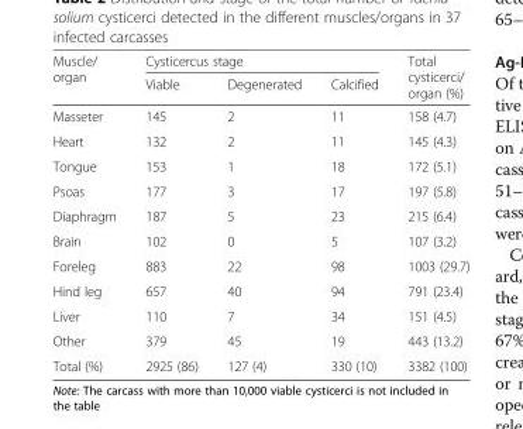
<table><thead><tr><td rowspan="2">Muscle/ organ</td><td colspan="3">Cysticercus stage</td><td rowspan="2">Total cysticerci/ organ (%)</td></tr><tr><td>Viable</td><td>Degenerated</td><td>Calcified</td></tr></thead><tbody><tr><td>Masseter</td><td>145</td><td>2</td><td>11</td><td>158 (4.7)</td></tr><tr><td>Heart</td><td>132</td><td>2</td><td>11</td><td>145 (4.3)</td></tr><tr><td>Tongue</td><td>153</td><td>1</td><td>18</td><td>172 (5.1)</td></tr><tr><td>Psoas</td><td>177</td><td>3</td><td>17</td><td>197 (5.8)</td></tr><tr><td>Diaphragm</td><td>187</td><td>5</td><td>23</td><td>215 (6.4)</td></tr><tr><td>Brain</td><td>102</td><td>0</td><td>5</td><td>107 (3.2)</td></tr><tr><td>Foreleg</td><td>883</td><td>22</td><td>98</td><td>1003 (29.7)</td></tr><tr><td>Hind leg</td><td>657</td><td>40</td><td>94</td><td>791 (23.4)</td></tr><tr><td>Liver</td><td>110</td><td>7</td><td>34</td><td>151 (4.5)</td></tr><tr><td>Other</td><td>379</td><td>45</td><td>19</td><td>443 (13.2)</td></tr><tr><td>Total (%)</td><td>2925 (86)</td><td>127 (4)</td><td>330 (10)</td><td>3382 (100)</td></tr></tbody></table>